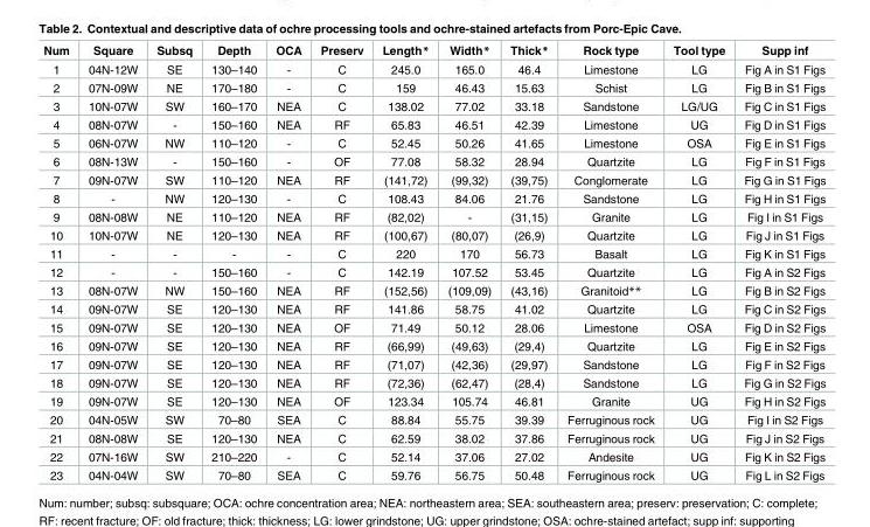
<table><thead><tr><td>Num</td><td>Square</td><td>Subsq</td><td>Depth</td><td>OCA</td><td>Preserv</td><td>Length*</td><td>Width*</td><td>Thick*</td><td>Rock type</td><td>Tool type</td><td>Supp inf</td></tr></thead><tbody><tr><td>1</td><td>04N-12W</td><td>SE</td><td>130–140</td><td>-</td><td>C</td><td>245.0</td><td>165.0</td><td>46.4</td><td>Limestone</td><td>LG</td><td>Fig A in S1 Figs</td></tr><tr><td>2</td><td>07N-09W</td><td>NE</td><td>170–180</td><td>-</td><td>C</td><td>159</td><td>46.43</td><td>15.63</td><td>Schist</td><td>LG</td><td>Fig B in S1 Figs</td></tr><tr><td>3</td><td>10N-07W</td><td>SW</td><td>160–170</td><td>NEA</td><td>C</td><td>138.02</td><td>77.02</td><td>33.18</td><td>Sandstone</td><td>LG/UG</td><td>Fig C in S1 Figs</td></tr><tr><td>4</td><td>08N-07W</td><td>-</td><td>150–160</td><td>NEA</td><td>RF</td><td>65.83</td><td>46.51</td><td>42.39</td><td>Limestone</td><td>UG</td><td>Fig D in S1 Figs</td></tr><tr><td>5</td><td>06N-07W</td><td>NW</td><td>110–120</td><td>-</td><td>C</td><td>52.45</td><td>50.26</td><td>41.65</td><td>Limestone</td><td>OSA</td><td>Fig E in S1 Figs</td></tr><tr><td>6</td><td>08N-13W</td><td>-</td><td>150–160</td><td>-</td><td>OF</td><td>77.08</td><td>58.32</td><td>28.94</td><td>Quartzite</td><td>LG</td><td>Fig F in S1 Figs</td></tr><tr><td>7</td><td>09N-07W</td><td>SW</td><td>110–120</td><td>NEA</td><td>RF</td><td>(141,72)</td><td>(99,32)</td><td>(39,75)</td><td>Conglomerate</td><td>LG</td><td>Fig G in S1 Figs</td></tr><tr><td>8</td><td>-</td><td>NW</td><td>120–130</td><td>-</td><td>C</td><td>108.43</td><td>84.06</td><td>21.76</td><td>Sandstone</td><td>LG</td><td>Fig H in S1 Figs</td></tr><tr><td>9</td><td>08N-08W</td><td>NE</td><td>110–120</td><td>NEA</td><td>RF</td><td>(82,02)</td><td>-</td><td>(31,15)</td><td>Granite</td><td>LG</td><td>Fig I in S1 Figs</td></tr><tr><td>10</td><td>10N-07W</td><td>NE</td><td>120–130</td><td>NEA</td><td>RF</td><td>(100,67)</td><td>(80,07)</td><td>(26,9)</td><td>Quartzite</td><td>LG</td><td>Fig J in S1 Figs</td></tr><tr><td>11</td><td>-</td><td>-</td><td>-</td><td>-</td><td>C</td><td>220</td><td>170</td><td>56.73</td><td>Basalt</td><td>LG</td><td>Fig K in S1 Figs</td></tr><tr><td>12</td><td>-</td><td>-</td><td>150–160</td><td>-</td><td>C</td><td>142.19</td><td>107.52</td><td>53.45</td><td>Quartzite</td><td>LG</td><td>Fig A in S2 Figs</td></tr><tr><td>13</td><td>08N-07W</td><td>NW</td><td>150–160</td><td>NEA</td><td>RF</td><td>(152,56)</td><td>(109,09)</td><td>(43,16)</td><td>Granitoid**</td><td>LG</td><td>Fig B in S2 Figs</td></tr><tr><td>14</td><td>09N-07W</td><td>SE</td><td>120–130</td><td>NEA</td><td>RF</td><td>141.86</td><td>58.75</td><td>41.02</td><td>Quartzite</td><td>LG</td><td>Fig C in S2 Figs</td></tr><tr><td>15</td><td>09N-07W</td><td>SE</td><td>120–130</td><td>NEA</td><td>OF</td><td>71.49</td><td>50.12</td><td>28.06</td><td>Limestone</td><td>OSA</td><td>Fig D in S2 Figs</td></tr><tr><td>16</td><td>09N-07W</td><td>SE</td><td>120–130</td><td>NEA</td><td>RF</td><td>(66,99)</td><td>(49,63)</td><td>(29,4)</td><td>Quartzite</td><td>LG</td><td>Fig E in S2 Figs</td></tr><tr><td>17</td><td>09N-07W</td><td>SE</td><td>120–130</td><td>NEA</td><td>RF</td><td>(71,07)</td><td>(42,36)</td><td>(29,97)</td><td>Sandstone</td><td>LG</td><td>Fig F in S2 Figs</td></tr><tr><td>18</td><td>09N-07W</td><td>SE</td><td>120–130</td><td>NEA</td><td>RF</td><td>(72,36)</td><td>(62,47)</td><td>(28,4)</td><td>Sandstone</td><td>LG</td><td>Fig G in S2 Figs</td></tr><tr><td>19</td><td>09N-07W</td><td>SE</td><td>120–130</td><td>NEA</td><td>OF</td><td>123.34</td><td>105.74</td><td>46.81</td><td>Granite</td><td>UG</td><td>Fig H in S2 Figs</td></tr><tr><td>20</td><td>04N-05W</td><td>SW</td><td>70–80</td><td>SEA</td><td>C</td><td>88.84</td><td>55.75</td><td>39.39</td><td>Ferruginous rock</td><td>UG</td><td>Fig I in S2 Figs</td></tr><tr><td>21</td><td>08N-08W</td><td>SE</td><td>120–130</td><td>NEA</td><td>C</td><td>62.59</td><td>38.02</td><td>37.86</td><td>Ferruginous rock</td><td>UG</td><td>Fig J in S2 Figs</td></tr><tr><td>22</td><td>07N-16W</td><td>SW</td><td>210–220</td><td>-</td><td>C</td><td>52.14</td><td>37.06</td><td>27.02</td><td>Andesite</td><td>UG</td><td>Fig K in S2 Figs</td></tr><tr><td>23</td><td>04N-04W</td><td>SW</td><td>70–80</td><td>SEA</td><td>C</td><td>59.76</td><td>56.75</td><td>50.48</td><td>Ferruginous rock</td><td>UG</td><td>Fig L in S2 Figs</td></tr></tbody></table>